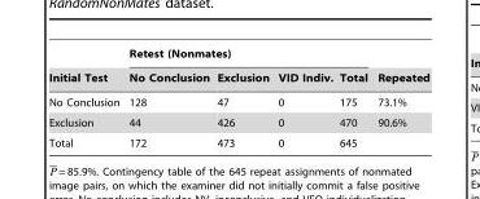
<table><thead><tr><td rowspan="2">Initial Test</td><td colspan="4">Retest (Nonmates)</td><td rowspan="2">Repeated</td></tr><tr><td>No Conclusion</td><td>Exclusion</td><td>VID Indiv.</td><td>Total</td></tr></thead><tbody><tr><td>No Conclusion</td><td>128</td><td>47</td><td>0</td><td>175</td><td>73.1%</td></tr><tr><td>Exclusion</td><td>44</td><td>426</td><td>0</td><td>470</td><td>90.6%</td></tr><tr><td>Total</td><td>172</td><td>473</td><td>0</td><td>645</td><td></td></tr></tbody></table>